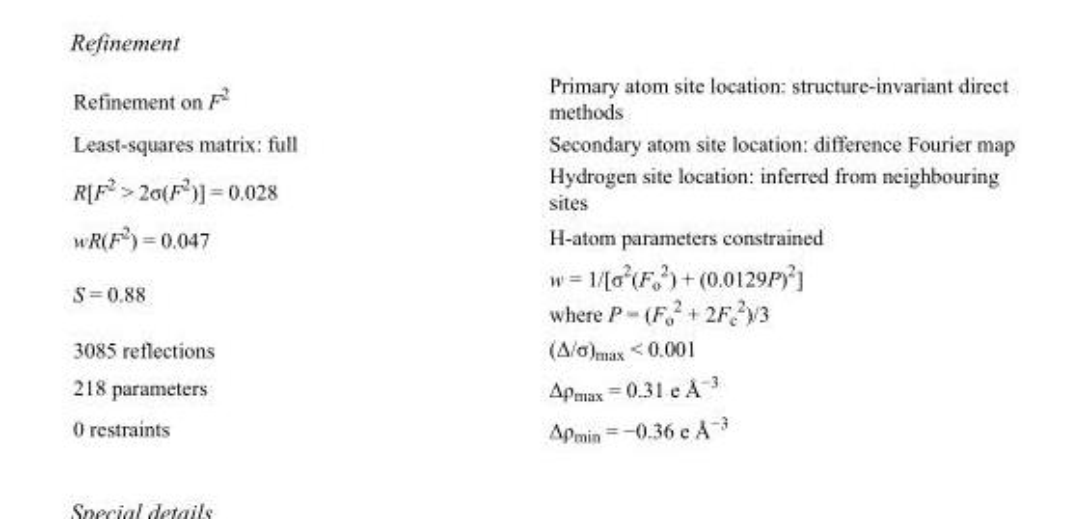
<table><tbody><tr><td>Refinement on F<sup>2</sup></td><td>Primary atom site location: structure-invariant direct methods</td></tr><tr><td>Least-squares matrix: full</td><td>Secondary atom site location: difference Fourier map</td></tr><tr><td>R[F<sup>2</sup> &gt; 2σ(F<sup>2</sup>)] = 0.028</td><td>Hydrogen site location: inferred from neighbouring sites</td></tr><tr><td>wR(F<sup>2</sup>) = 0.047</td><td>H-atom parameters constrained</td></tr><tr><td>S = 0.88</td><td>w = 1/[σ<sup>2</sup>(F<sub>o</sub> <sup>2</sup>) + (0.0129P)<sup>2</sup>] where P = (F<sub>o</sub> <sup>2</sup> + 2F<sub>c</sub> <sup>2</sup>)/3</td></tr><tr><td>3085 reflections</td><td>(Δ/σ)<sub>max</sub> &lt; 0.001</td></tr><tr><td>218 parameters</td><td>Δρ<sub>max</sub> = 0.31 e Å<sup>−3</sup></td></tr><tr><td>0 restraints</td><td>Δρ<sub>min</sub> = −0.36 e Å<sup>−3</sup></td></tr></tbody></table>